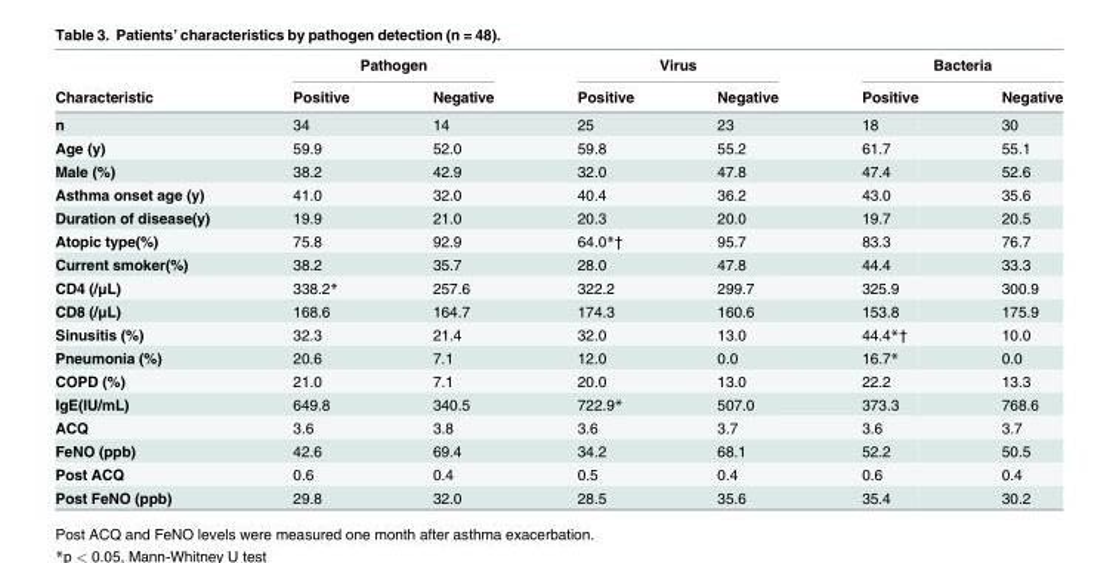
<table><thead><tr><td rowspan="2">Characteristic</td><td colspan="2">Pathogen</td><td colspan="2">Virus</td><td colspan="2">Bacteria</td></tr><tr><td>Positive</td><td>Negative</td><td>Positive</td><td>Negative</td><td>Positive</td><td>Negative</td></tr></thead><tbody><tr><td>n</td><td>34</td><td>14</td><td>25</td><td>23</td><td>18</td><td>30</td></tr><tr><td>Age (y)</td><td>59.9</td><td>52.0</td><td>59.8</td><td>55.2</td><td>61.7</td><td>55.1</td></tr><tr><td>Male (%)</td><td>38.2</td><td>42.9</td><td>32.0</td><td>47.8</td><td>47.4</td><td>52.6</td></tr><tr><td>Asthma onset age (y)</td><td>41.0</td><td>32.0</td><td>40.4</td><td>36.2</td><td>43.0</td><td>35.6</td></tr><tr><td>Duration of disease(y)</td><td>19.9</td><td>21.0</td><td>20.3</td><td>20.0</td><td>19.7</td><td>20.5</td></tr><tr><td>Atopic type(%)</td><td>75.8</td><td>92.9</td><td>64.0*†</td><td>95.7</td><td>83.3</td><td>76.7</td></tr><tr><td>Current smoker(%)</td><td>38.2</td><td>35.7</td><td>28.0</td><td>47.8</td><td>44.4</td><td>33.3</td></tr><tr><td>CD4 (/μL)</td><td>338.2*</td><td>257.6</td><td>322.2</td><td>299.7</td><td>325.9</td><td>300.9</td></tr><tr><td>CD8 (/μL)</td><td>168.6</td><td>164.7</td><td>174.3</td><td>160.6</td><td>153.8</td><td>175.9</td></tr><tr><td>Sinusitis (%)</td><td>32.3</td><td>21.4</td><td>32.0</td><td>13.0</td><td>44.4*†</td><td>10.0</td></tr><tr><td>Pneumonia (%)</td><td>20.6</td><td>7.1</td><td>12.0</td><td>0.0</td><td>16.7*</td><td>0.0</td></tr><tr><td>COPD (%)</td><td>21.0</td><td>7.1</td><td>20.0</td><td>13.0</td><td>22.2</td><td>13.3</td></tr><tr><td>IgE(IU/mL)</td><td>649.8</td><td>340.5</td><td>722.9*</td><td>507.0</td><td>373.3</td><td>768.6</td></tr><tr><td>ACQ</td><td>3.6</td><td>3.8</td><td>3.6</td><td>3.7</td><td>3.6</td><td>3.7</td></tr><tr><td>FeNO (ppb)</td><td>42.6</td><td>69.4</td><td>34.2</td><td>68.1</td><td>52.2</td><td>50.5</td></tr><tr><td>Post ACQ</td><td>0.6</td><td>0.4</td><td>0.5</td><td>0.4</td><td>0.6</td><td>0.4</td></tr><tr><td>Post FeNO (ppb)</td><td>29.8</td><td>32.0</td><td>28.5</td><td>35.6</td><td>35.4</td><td>30.2</td></tr></tbody></table>